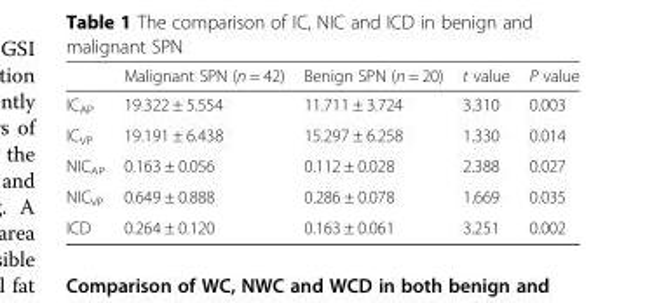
<table><thead><tr><td></td><td>Malignant SPN (n = 42)</td><td>Benign SPN (n = 20)</td><td>t value</td><td>P value</td></tr></thead><tbody><tr><td>IC<sub>AP</sub></td><td>19.322 ± 5.554</td><td>11.711 ± 3.724</td><td>3.310</td><td>0.003</td></tr><tr><td>IC<sub>VP</sub></td><td>19.191 ± 6.438</td><td>15.297 ± 6.258</td><td>1.330</td><td>0.014</td></tr><tr><td>NIC<sub>AP</sub></td><td>0.163 ± 0.056</td><td>0.112 ± 0.028</td><td>2.388</td><td>0.027</td></tr><tr><td>NIC<sub>VP</sub></td><td>0.649 ± 0.888</td><td>0.286 ± 0.078</td><td>1.669</td><td>0.035</td></tr><tr><td>ICD</td><td>0.264 ± 0.120</td><td>0.163 ± 0.061</td><td>3.251</td><td>0.002</td></tr></tbody></table>